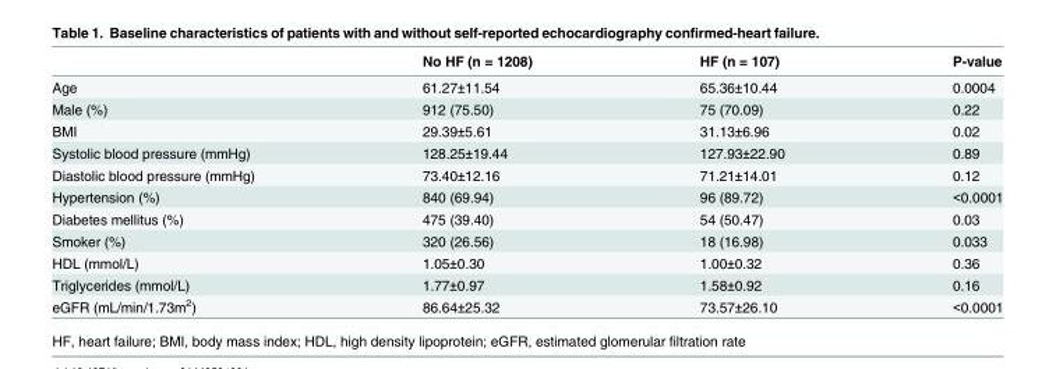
<table><thead><tr><td></td><td>No HF (n = 1208)</td><td>HF (n = 107)</td><td>P-value</td></tr></thead><tbody><tr><td>Age</td><td>61.27±11.54</td><td>65.36±10.44</td><td>0.0004</td></tr><tr><td>Male (%)</td><td>912 (75.50)</td><td>75 (70.09)</td><td>0.22</td></tr><tr><td>BMI</td><td>29.39±5.61</td><td>31.13±6.96</td><td>0.02</td></tr><tr><td>Systolic blood pressure (mmHg)</td><td>128.25±19.44</td><td>127.93±22.90</td><td>0.89</td></tr><tr><td>Diastolic blood pressure (mmHg)</td><td>73.40±12.16</td><td>71.21±14.01</td><td>0.12</td></tr><tr><td>Hypertension (%)</td><td>840 (69.94)</td><td>96 (89.72)</td><td>&lt;0.0001</td></tr><tr><td>Diabetes mellitus (%)</td><td>475 (39.40)</td><td>54 (50.47)</td><td>0.03</td></tr><tr><td>Smoker (%)</td><td>320 (26.56)</td><td>18 (16.98)</td><td>0.033</td></tr><tr><td>HDL (mmol/L)</td><td>1.05±0.30</td><td>1.00±0.32</td><td>0.36</td></tr><tr><td>Triglycerides (mmol/L)</td><td>1.77±0.97</td><td>1.58±0.92</td><td>0.16</td></tr><tr><td>eGFR (mL/min/1.73m<sup>2</sup>)</td><td>86.64±25.32</td><td>73.57±26.10</td><td>&lt;0.0001</td></tr></tbody></table>